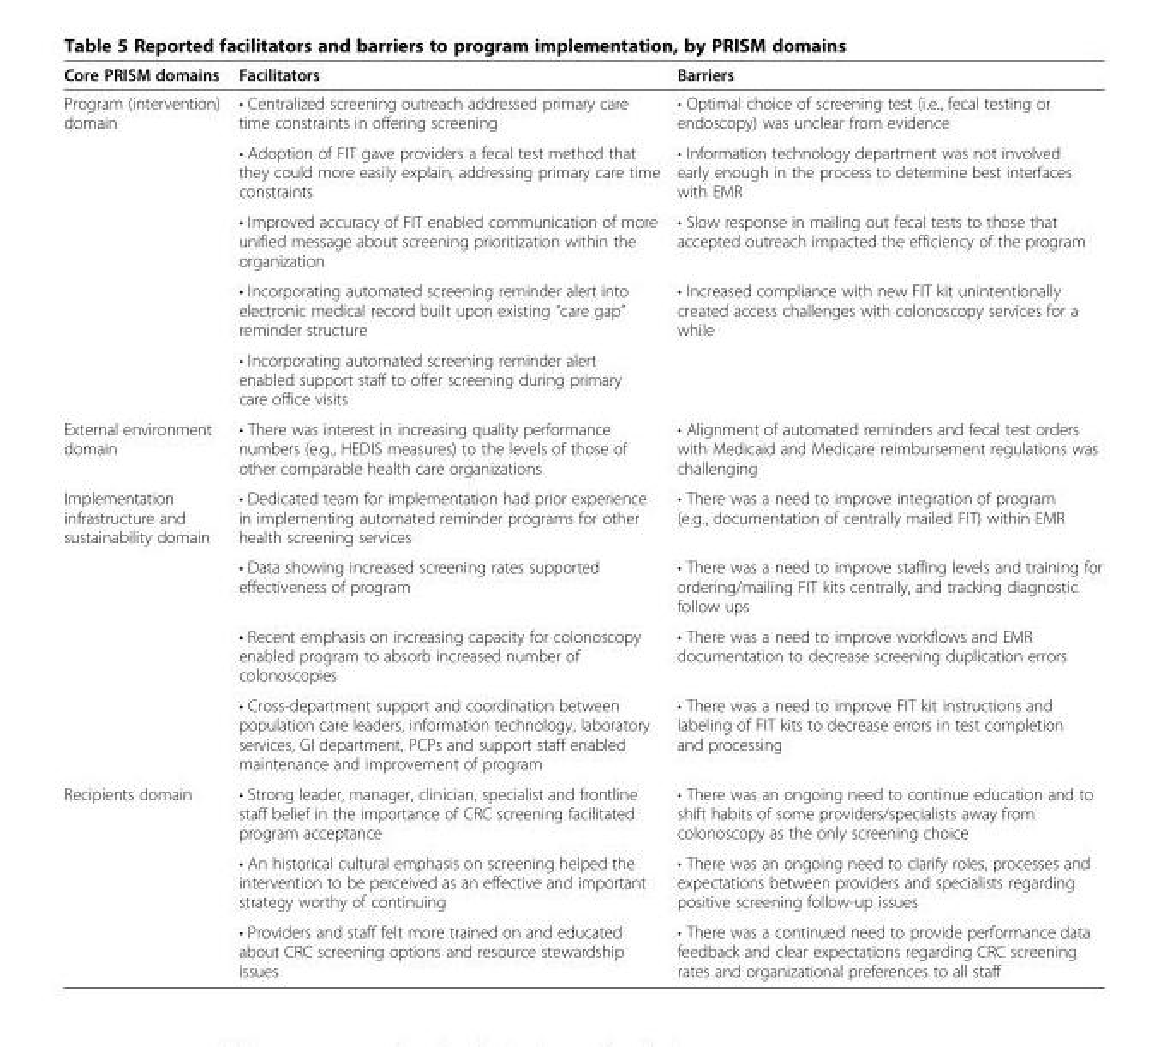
<table><thead><tr><td>Core PRISM domains</td><td>Facilitators</td><td>Barriers</td></tr></thead><tbody><tr><td rowspan="5">Program (intervention) domain</td><td>• Centralized screening outreach addressed primary care time constraints in offering screening</td><td>• Optimal choice of screening test (i.e., fecal testing or endoscopy) was unclear from evidence</td></tr><tr><td>• Adoption of FIT gave providers a fecal test method that they could more easily explain, addressing primary care time constraints</td><td>• Information technology department was not involved early enough in the process to determine best interfaces with EMR</td></tr><tr><td>• Improved accuracy of FIT enabled communication of more unified message about screening prioritization within the organization</td><td>• Slow response in mailing out fecal tests to those that accepted outreach impacted the efficiency of the program</td></tr><tr><td>• Incorporating automated screening reminder alert into electronic medical record built upon existing “care gap” reminder structure</td><td>• Increased compliance with new FIT kit unintentionally created access challenges with colonoscopy services for a while</td></tr><tr><td>• Incorporating automated screening reminder alert enabled support staff to offer screening during primary care office visits</td><td></td></tr><tr><td>External environment domain</td><td>• There was interest in increasing quality performance numbers (e.g., HEDIS measures) to the levels of those of other comparable health care organizations</td><td>• Alignment of automated reminders and fecal test orders with Medicaid and Medicare reimbursement regulations was challenging</td></tr><tr><td rowspan="4">Implementation infrastructure and sustainability domain</td><td>• Dedicated team for implementation had prior experience in implementing automated reminder programs for other health screening services</td><td>• There was a need to improve integration of program (e.g., documentation of centrally mailed FIT) within EMR</td></tr><tr><td>• Data showing increased screening rates supported effectiveness of program</td><td>• There was a need to improve staffing levels and training for ordering/mailing FIT kits centrally, and tracking diagnostic follow ups</td></tr><tr><td>• Recent emphasis on increasing capacity for colonoscopy enabled program to absorb increased number of colonoscopies</td><td>• There was a need to improve workflows and EMR documentation to decrease screening duplication errors</td></tr><tr><td>• Cross-department support and coordination between population care leaders, information technology, laboratory services, GI department, PCPs and support staff enabled maintenance and improvement of program</td><td>• There was a need to improve FIT kit instructions and labeling of FIT kits to decrease errors in test completion and processing</td></tr><tr><td rowspan="3">Recipients domain</td><td>• Strong leader, manager, clinician, specialist and frontline staff belief in the importance of CRC screening facilitated program acceptance</td><td>• There was an ongoing need to continue education and to shift habits of some providers/specialists away from colonoscopy as the only screening choice</td></tr><tr><td>• An historical cultural emphasis on screening helped the intervention to be perceived as an effective and important strategy worthy of continuing</td><td>• There was an ongoing need to clarify roles, processes and expectations between providers and specialists regarding positive screening follow-up issues</td></tr><tr><td>• Providers and staff felt more trained on and educated about CRC screening options and resource stewardship issues</td><td>• There was a continued need to provide performance data feedback and clear expectations regarding CRC screening rates and organizational preferences to all staff</td></tr></tbody></table>